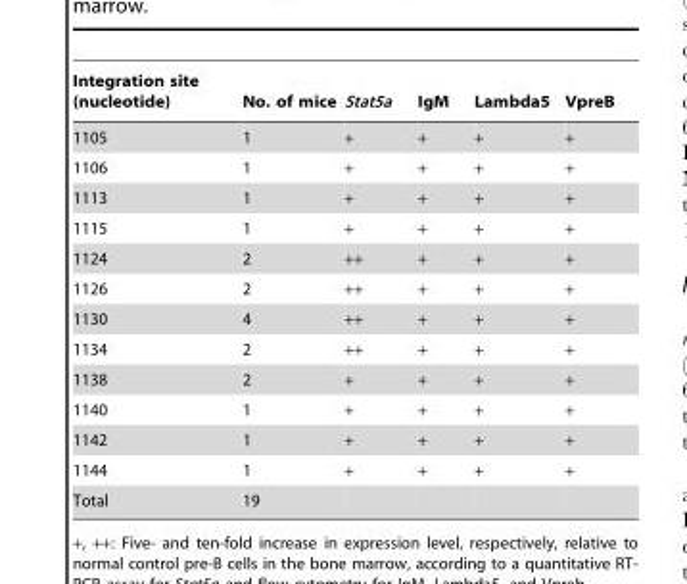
<table><thead><tr><td>Integration site (nucleotide)</td><td>No. of mice</td><td>Stat5a</td><td>IgM</td><td>Lambda5</td><td>VpreB</td></tr></thead><tbody><tr><td>1105</td><td>1</td><td>+</td><td>+</td><td>+</td><td>+</td></tr><tr><td>1106</td><td>1</td><td>+</td><td>+</td><td>+</td><td>+</td></tr><tr><td>1113</td><td>1</td><td>+</td><td>+</td><td>+</td><td>+</td></tr><tr><td>1115</td><td>1</td><td>+</td><td>+</td><td>+</td><td>+</td></tr><tr><td>1124</td><td>2</td><td>++</td><td>+</td><td>+</td><td>+</td></tr><tr><td>1126</td><td>2</td><td>++</td><td>+</td><td>+</td><td>+</td></tr><tr><td>1130</td><td>4</td><td>++</td><td>+</td><td>+</td><td>+</td></tr><tr><td>1134</td><td>2</td><td>++</td><td>+</td><td>+</td><td>+</td></tr><tr><td>1138</td><td>2</td><td>+</td><td>+</td><td>+</td><td>+</td></tr><tr><td>1140</td><td>1</td><td>+</td><td>+</td><td>+</td><td>+</td></tr><tr><td>1142</td><td>1</td><td>+</td><td>+</td><td>+</td><td>+</td></tr><tr><td>1144</td><td>1</td><td>+</td><td>+</td><td>+</td><td>+</td></tr><tr><td>Total</td><td>19</td><td></td><td></td><td></td><td></td></tr></tbody></table>